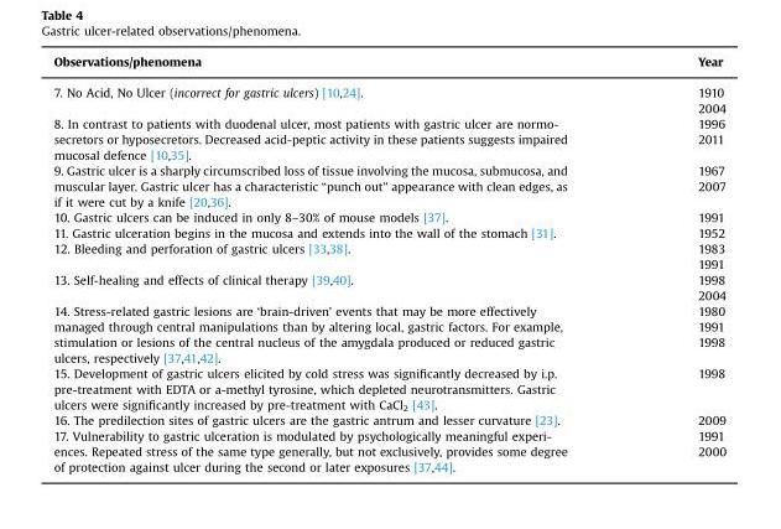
<table><tbody><tr><td>Observations/phenomena</td><td>Year</td></tr><tr><td rowspan="2">7. No Acid, No Ulcer (incorrect for gastric ulcers) [10,24].</td><td>1910</td></tr><tr><td>2004</td></tr><tr><td rowspan="2">8. In contrast to patients with duodenal ulcer, most patients with gastric ulcer are normo- secretors or hyposecretors. Decreased acid-peptic activity in these patients suggests impaired mucosal defence [10,35].</td><td>1996</td></tr><tr><td>2011</td></tr><tr><td rowspan="2">9. Gastric ulcer is a sharply circumscribed loss of tissue involving the mucosa, submucosa, and muscular layer. Gastric ulcer has a characteristic “punch out” appearance with clean edges, as if it were cut by a knife [20,36].</td><td>1967</td></tr><tr><td>2007</td></tr><tr><td>10. Gastric ulcers can be induced in only 8–30% of mouse models [37].</td><td>1991</td></tr><tr><td>11. Gastric ulceration begins in the mucosa and extends into the wall of the stomach [31].</td><td>1952</td></tr><tr><td rowspan="2">12. Bleeding and perforation of gastric ulcers [33,38].</td><td>1983</td></tr><tr><td>1991</td></tr><tr><td rowspan="2">13. Self-healing and effects of clinical therapy [39,40].</td><td>1998</td></tr><tr><td>2004</td></tr><tr><td rowspan="3">14. Stress-related gastric lesions are ‘brain-driven’ events that may be more effectively managed through central manipulations than by altering local, gastric factors. For example, stimulation or lesions of the central nucleus of the amygdala produced or reduced gastric ulcers, respectively [37,41,42].</td><td>1980</td></tr><tr><td>1991</td></tr><tr><td>1998</td></tr><tr><td>15. Development of gastric ulcers elicited by cold stress was significantly decreased by i.p. pre-treatment with EDTA or a-methyl tyrosine, which depleted neurotransmitters. Gastric ulcers were significantly increased by pre-treatment with CaCl<sub>2</sub> [43].</td><td>1998</td></tr><tr><td>16. The predilection sites of gastric ulcers are the gastric antrum and lesser curvature [23].</td><td>2009</td></tr><tr><td rowspan="2">17. Vulnerability to gastric ulceration is modulated by psychologically meaningful experi- ences. Repeated stress of the same type generally, but not exclusively, provides some degree of protection against ulcer during the second or later exposures [37,44].</td><td>1991</td></tr><tr><td>2000</td></tr></tbody></table>